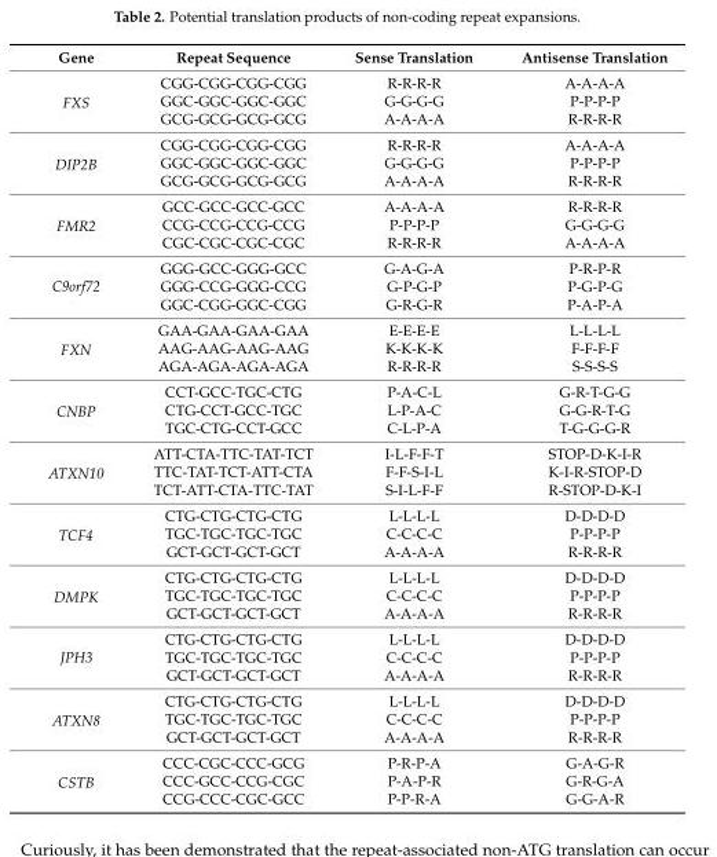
<table><thead><tr><td>Gene</td><td>Repeat Sequence</td><td>Sense Translation</td><td>Antisense Translation</td></tr></thead><tbody><tr><td rowspan="3">FXS</td><td>CGG-CGG-CGG-CGG</td><td>R-R-R-R</td><td>A-A-A-A</td></tr><tr><td>GGC-GGC-GGC-GGC</td><td>G-G-G-G</td><td>P-P-P-P</td></tr><tr><td>GCG-GCG-GCG-GCG</td><td>A-A-A-A</td><td>R-R-R-R</td></tr><tr><td rowspan="3">DIP2B</td><td>CGG-CGG-CGG-CGG</td><td>R-R-R-R</td><td>A-A-A-A</td></tr><tr><td>GGC-GGC-GGC-GGC</td><td>G-G-G-G</td><td>P-P-P-P</td></tr><tr><td>GCG-GCG-GCG-GCG</td><td>A-A-A-A</td><td>R-R-R-R</td></tr><tr><td rowspan="3">FMR2</td><td>GCC-GCC-GCC-GCC</td><td>A-A-A-A</td><td>R-R-R-R</td></tr><tr><td>CCG-CCG-CCG-CCG</td><td>P-P-P-P</td><td>G-G-G-G</td></tr><tr><td>CGC-CGC-CGC-CGC</td><td>R-R-R-R</td><td>A-A-A-A</td></tr><tr><td rowspan="3">C9orf72</td><td>GGG-GCC-GGG-GCC</td><td>G-A-G-A</td><td>P-R-P-R</td></tr><tr><td>GGG-CCG-GGG-CCG</td><td>G-P-G-P</td><td>P-G-P-G</td></tr><tr><td>GGC-CGG-GGC-CGG</td><td>G-R-G-R</td><td>P-A-P-A</td></tr><tr><td rowspan="3">FXN</td><td>GAA-GAA-GAA-GAA</td><td>E-E-E-E</td><td>L-L-L-L</td></tr><tr><td>AAG-AAG-AAG-AAG</td><td>K-K-K-K</td><td>F-F-F-F</td></tr><tr><td>AGA-AGA-AGA-AGA</td><td>R-R-R-R</td><td>S-S-S-S</td></tr><tr><td rowspan="3">CNBP</td><td>CCT-GCC-TGC-CTG</td><td>P-A-C-L</td><td>G-R-T-G-G</td></tr><tr><td>CTG-CCT-GCC-TGC</td><td>L-P-A-C</td><td>G-G-R-T-G</td></tr><tr><td>TGC-CTG-CCT-GCC</td><td>C-L-P-A</td><td>T-G-G-G-R</td></tr><tr><td rowspan="3">ATXN10</td><td>ATT-CTA-TTC-TAT-TCT</td><td>I-L-F-F-T</td><td>STOP-D-K-I-R</td></tr><tr><td>TTC-TAT-TCT-ATT-CTA</td><td>F-F-S-I-L</td><td>K-I-R-STOP-D</td></tr><tr><td>TCT-ATT-CTA-TTC-TAT</td><td>S-I-L-F-F</td><td>R-STOP-D-K-I</td></tr><tr><td rowspan="3">TCF4</td><td>CTG-CTG-CTG-CTG</td><td>L-L-L-L</td><td>D-D-D-D</td></tr><tr><td>TGC-TGC-TGC-TGC</td><td>C-C-C-C</td><td>P-P-P-P</td></tr><tr><td>GCT-GCT-GCT-GCT</td><td>A-A-A-A</td><td>R-R-R-R</td></tr><tr><td rowspan="3">DMPK</td><td>CTG-CTG-CTG-CTG</td><td>L-L-L-L</td><td>D-D-D-D</td></tr><tr><td>TGC-TGC-TGC-TGC</td><td>C-C-C-C</td><td>P-P-P-P</td></tr><tr><td>GCT-GCT-GCT-GCT</td><td>A-A-A-A</td><td>R-R-R-R</td></tr><tr><td rowspan="3">JPH3</td><td>CTG-CTG-CTG-CTG</td><td>L-L-L-L</td><td>D-D-D-D</td></tr><tr><td>TGC-TGC-TGC-TGC</td><td>C-C-C-C</td><td>P-P-P-P</td></tr><tr><td>GCT-GCT-GCT-GCT</td><td>A-A-A-A</td><td>R-R-R-R</td></tr><tr><td rowspan="3">ATXN8</td><td>CTG-CTG-CTG-CTG</td><td>L-L-L-L</td><td>D-D-D-D</td></tr><tr><td>TGC-TGC-TGC-TGC</td><td>C-C-C-C</td><td>P-P-P-P</td></tr><tr><td>GCT-GCT-GCT-GCT</td><td>A-A-A-A</td><td>R-R-R-R</td></tr><tr><td rowspan="3">CSTB</td><td>CCC-CGC-CCC-GCG</td><td>P-R-P-A</td><td>G-A-G-R</td></tr><tr><td>CCC-GCC-CCG-CGC</td><td>P-A-P-R</td><td>G-R-G-A</td></tr><tr><td>CCG-CCC-CGC-GCC</td><td>P-P-R-A</td><td>G-G-A-R</td></tr></tbody></table>